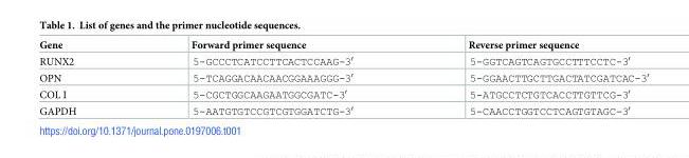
<table><thead><tr><td>Gene</td><td>Forward primer sequence</td><td>Reverse primer sequence</td></tr></thead><tbody><tr><td>RUNX2</td><td>5-GCCCTCATCCTTCACTCCAAG-3′</td><td>5-GGTCAGTCAGTGCCTTTCCTC-3′</td></tr><tr><td>OPN</td><td>5-TCAGGACAACAACGGAAAGGG-3′</td><td>5-GGAACTTGCTTGACTATCGATCAC-3′</td></tr><tr><td>COL I</td><td>5-CGCTGGCAAGAATGGCGATC-3′</td><td>5-ATGCCTCTGTCACCTTGTTCG-3′</td></tr><tr><td>GAPDH</td><td>5-AATGTGTCCGTCGTGGATCTG-3′</td><td>5-CAACCTGGTCCTCAGTGTAGC-3′</td></tr></tbody></table>